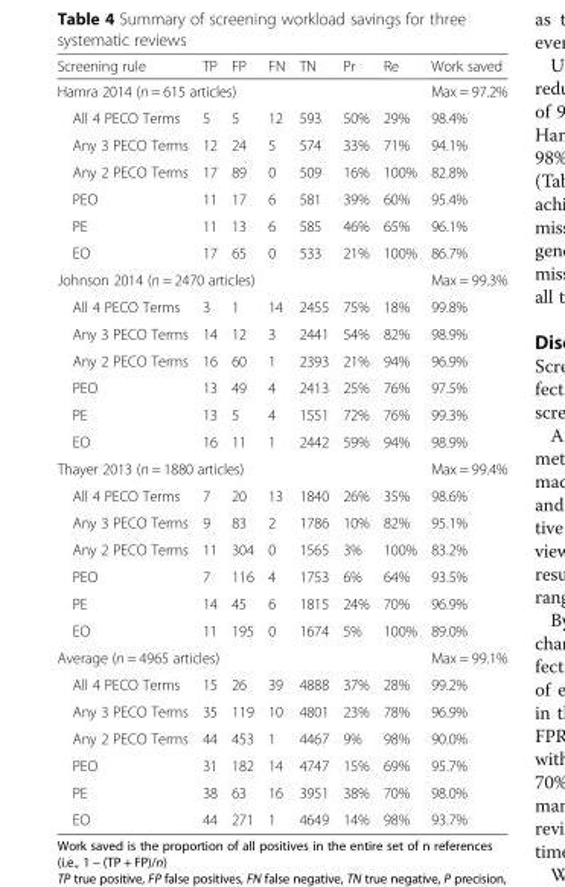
<table><thead><tr><td>Screening rule</td><td>TP</td><td>FP</td><td>FN</td><td>TN</td><td>Pr</td><td>Re</td><td>Work saved</td></tr></thead><tbody><tr><td colspan="7">Hamra 2014 (n = 615 articles)</td><td>Max = 97.2%</td></tr><tr><td>All 4 PECO Terms</td><td>5</td><td>5</td><td>12</td><td>593</td><td>50%</td><td>29%</td><td>98.4%</td></tr><tr><td>Any 3 PECO Terms</td><td>12</td><td>24</td><td>5</td><td>574</td><td>33%</td><td>71%</td><td>94.1%</td></tr><tr><td>Any 2 PECO Terms</td><td>17</td><td>89</td><td>0</td><td>509</td><td>16%</td><td>100%</td><td>82.8%</td></tr><tr><td>PEO</td><td>11</td><td>17</td><td>6</td><td>581</td><td>39%</td><td>60%</td><td>95.4%</td></tr><tr><td>PE</td><td>11</td><td>13</td><td>6</td><td>585</td><td>46%</td><td>65%</td><td>96.1%</td></tr><tr><td>EO</td><td>17</td><td>65</td><td>0</td><td>533</td><td>21%</td><td>100%</td><td>86.7%</td></tr><tr><td colspan="7">Johnson 2014 (n = 2470 articles)</td><td>Max = 99.3%</td></tr><tr><td>All 4 PECO Terms</td><td>3</td><td>1</td><td>14</td><td>2455</td><td>75%</td><td>18%</td><td>99.8%</td></tr><tr><td>Any 3 PECO Terms</td><td>14</td><td>12</td><td>3</td><td>2441</td><td>54%</td><td>82%</td><td>98.9%</td></tr><tr><td>Any 2 PECO Terms</td><td>16</td><td>60</td><td>1</td><td>2393</td><td>21%</td><td>94%</td><td>96.9%</td></tr><tr><td>PEO</td><td>13</td><td>49</td><td>4</td><td>2413</td><td>25%</td><td>76%</td><td>97.5%</td></tr><tr><td>PE</td><td>13</td><td>5</td><td>4</td><td>1551</td><td>72%</td><td>76%</td><td>99.3%</td></tr><tr><td>EO</td><td>16</td><td>11</td><td>1</td><td>2442</td><td>59%</td><td>94%</td><td>98.9%</td></tr><tr><td colspan="7">Thayer 2013 (n = 1880 articles)</td><td>Max = 99.4%</td></tr><tr><td>All 4 PECO Terms</td><td>7</td><td>20</td><td>13</td><td>1840</td><td>26%</td><td>35%</td><td>98.6%</td></tr><tr><td>Any 3 PECO Terms</td><td>9</td><td>83</td><td>2</td><td>1786</td><td>10%</td><td>82%</td><td>95.1%</td></tr><tr><td>Any 2 PECO Terms</td><td>11</td><td>304</td><td>0</td><td>1565</td><td>3%</td><td>100%</td><td>83.2%</td></tr><tr><td>PEO</td><td>7</td><td>116</td><td>4</td><td>1753</td><td>6%</td><td>64%</td><td>93.5%</td></tr><tr><td>PE</td><td>14</td><td>45</td><td>6</td><td>1815</td><td>24%</td><td>70%</td><td>96.9%</td></tr><tr><td>EO</td><td>11</td><td>195</td><td>0</td><td>1674</td><td>5%</td><td>100%</td><td>89.0%</td></tr><tr><td colspan="7">Average (n = 4965 articles)</td><td>Max = 99.1%</td></tr><tr><td>All 4 PECO Terms</td><td>15</td><td>26</td><td>39</td><td>4888</td><td>37%</td><td>28%</td><td>99.2%</td></tr><tr><td>Any 3 PECO Terms</td><td>35</td><td>119</td><td>10</td><td>4801</td><td>23%</td><td>78%</td><td>96.9%</td></tr><tr><td>Any 2 PECO Terms</td><td>44</td><td>453</td><td>1</td><td>4467</td><td>9%</td><td>98%</td><td>90.0%</td></tr><tr><td>PEO</td><td>31</td><td>182</td><td>14</td><td>4747</td><td>15%</td><td>69%</td><td>95.7%</td></tr><tr><td>PE</td><td>38</td><td>63</td><td>16</td><td>3951</td><td>38%</td><td>70%</td><td>98.0%</td></tr><tr><td>EO</td><td>44</td><td>271</td><td>1</td><td>4649</td><td>14%</td><td>98%</td><td>93.7%</td></tr></tbody></table>